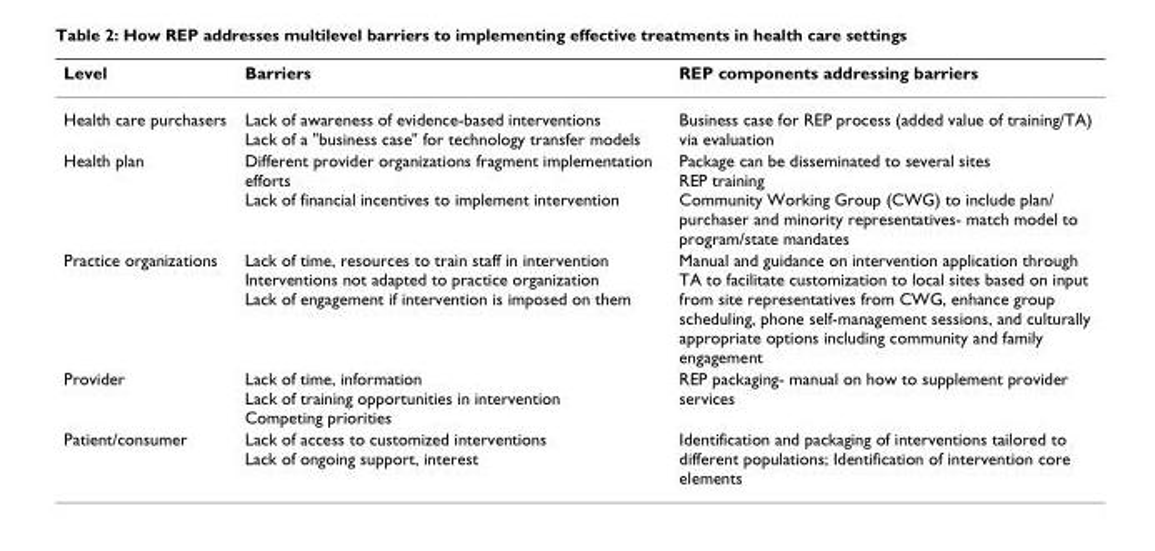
<table><thead><tr><td>Level</td><td>Barriers</td><td>REP components addressing barriers</td></tr></thead><tbody><tr><td>Health care purchasers</td><td>Lack of awareness of evidence-based interventions Lack of a &quot;business case&quot; for technology transfer models</td><td>Business case for REP process (added value of training/TA) via evaluation</td></tr><tr><td>Health plan</td><td>Different provider organizations fragment implementation efforts Lack of financial incentives to implement intervention</td><td>Package can be disseminated to several sites REP training Community Working Group (CWG) to include plan/ purchaser and minority representatives- match model to program/state mandates</td></tr><tr><td>Practice organizations</td><td>Lack of time, resources to train staff in intervention Interventions not adapted to practice organization Lack of engagement if intervention is imposed on them</td><td>Manual and guidance on intervention application through TA to facilitate customization to local sites based on input from site representatives from CWG, enhance group scheduling, phone self-management sessions, and culturally appropriate options including community and family engagement</td></tr><tr><td>Provider</td><td>Lack of time, information Lack of training opportunities in intervention Competing priorities</td><td>REP packaging- manual on how to supplement provider services</td></tr><tr><td>Patient/consumer</td><td>Lack of access to customized interventions Lack of ongoing support, interest</td><td>Identification and packaging of interventions tailored to different populations; Identification of intervention core elements</td></tr></tbody></table>